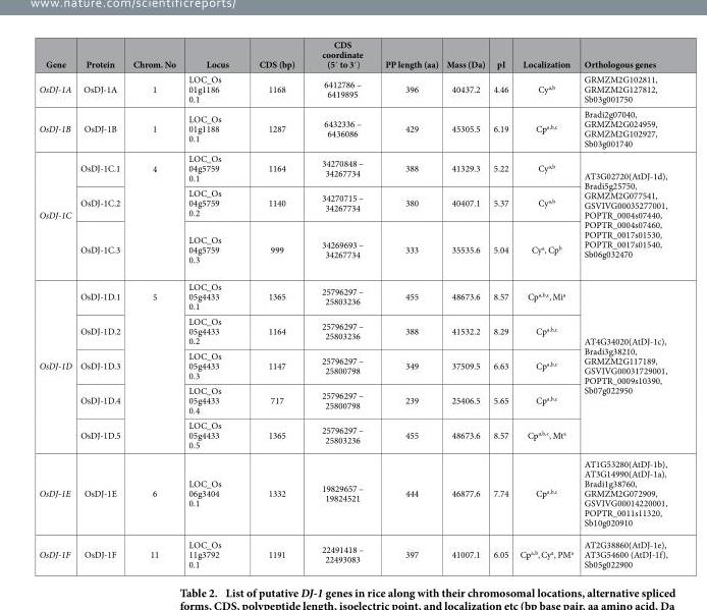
<table><thead><tr><td>Gene</td><td>Protein</td><td>Chrom. No</td><td>Locus</td><td>CDS (bp)</td><td>CDS coordinate (5′ to 3′ )</td><td>PP length (aa)</td><td>Mass (Da)</td><td>pI</td><td>Localization</td><td>Orthologous genes</td></tr></thead><tbody><tr><td>OsDJ-1A</td><td>OsDJ-1A</td><td>1</td><td>LOC_Os 01g1186 0.1</td><td>1168</td><td>6412786 – 6419895</td><td>396</td><td>40437.2</td><td>4.46</td><td>Cy<sup>a</sup>,<sup>b</sup></td><td>GRMZM2G102811, GRMZM2G127812, Sb03g001750</td></tr><tr><td>OsDJ-1B</td><td>OsDJ-1B</td><td>1</td><td>LOC_Os 01g1188 0.1</td><td>1287</td><td>6432336 – 6436086</td><td>429</td><td>45305.5</td><td>6.19</td><td>Cp<sup>a</sup>,<sup>b</sup>,<sup>c</sup></td><td>Bradi2g07040, GRMZM2G024959, GRMZM2G102927, Sb03g001740</td></tr><tr><td rowspan="3">OsDJ-1C</td><td>OsDJ-1C.1</td><td rowspan="3">4</td><td>LOC_Os 04g5759 0.1</td><td>1164</td><td>34270848 – 34267734</td><td>388</td><td>41329.3</td><td>5.22</td><td>Cy<sup>a</sup>,<sup>b</sup></td><td rowspan="3">AT3G02720(AtDJ-1d), Bradi5g25750, GRMZM2G077541, GSVIVG00035277001, POPTR_0004s07440, POPTR_0004s07460, POPTR_0017s01530, POPTR_0017s01540, Sb06g032470</td></tr><tr><td>OsDJ-1C.2</td><td>LOC_Os 04g5759 0.2</td><td>1140</td><td>34270715 – 34267734</td><td>380</td><td>40407.1</td><td>5.37</td><td>Cy<sup>a</sup>,<sup>b</sup></td></tr><tr><td>OsDJ-1C.3</td><td>LOC_Os 04g5759 0.3</td><td>999</td><td>34269693 – 34267734</td><td>333</td><td>35535.6</td><td>5.04</td><td>Cy<sup>a</sup>, Cp<sup>b</sup></td></tr><tr><td rowspan="5">OsDJ-1D</td><td>OsDJ-1D.1</td><td rowspan="5">5</td><td>LOC_Os 05g4433 0.1</td><td>1365</td><td>25796297 – 25803236</td><td>455</td><td>48673.6</td><td>8.57</td><td>Cp<sup>a</sup>,<sup>b</sup>,<sup>c</sup>, Mi<sup>a</sup></td><td rowspan="5">AT4G34020(AtDJ-1c), Bradi3g38210, GRMZM2G117189, GSVIVG00031729001, POPTR_0009s10390, Sb07g022950</td></tr><tr><td>OsDJ-1D.2</td><td>LOC_Os 05g4433 0.2</td><td>1164</td><td>25796297 – 25803236</td><td>388</td><td>41532.2</td><td>8.29</td><td>Cp<sup>a</sup>,<sup>b</sup>,<sup>c</sup></td></tr><tr><td>OsDJ-1D.3</td><td>LOC_Os 05g4433 0.3</td><td>1147</td><td>25796297 – 25800798</td><td>349</td><td>37509.5</td><td>6.63</td><td>Cp<sup>a</sup>,<sup>b</sup>,<sup>c</sup></td></tr><tr><td>OsDJ-1D.4</td><td>LOC_Os 05g4433 0.4</td><td>717</td><td>25796297 – 25800798</td><td>239</td><td>25406.5</td><td>5.65</td><td>Cp<sup>a</sup>,<sup>b</sup>,<sup>c</sup></td></tr><tr><td>OsDJ-1D.5</td><td>LOC_Os 05g4433 0.5</td><td>1365</td><td>25796297 – 25803236</td><td>455</td><td>48673.6</td><td>8.57</td><td>Cp<sup>a</sup>,<sup>b</sup>,<sup>c</sup>, Mt<sup>a</sup></td></tr><tr><td>OsDJ-1E</td><td>OsDJ-1E</td><td>6</td><td>LOC_Os 06g3404 0.1</td><td>1332</td><td>19829657 – 19824521</td><td>444</td><td>46877.6</td><td>7.74</td><td>Cp<sup>a</sup>,<sup>b</sup>,<sup>c</sup></td><td>AT1G53280(AtDJ-1b), AT3G14990(AtDJ-1a), Bradi1g38760, GRMZM2G072909, GSVIVG00014220001, POPTR_0011s11320, Sb10g020910</td></tr><tr><td>OsDJ-1F</td><td>OsDJ-1F</td><td>11</td><td>LOC_Os 11g3792 0.1</td><td>1191</td><td>22491418 – 22493083</td><td>397</td><td>41007.1</td><td>6.05</td><td>Cp<sup>a</sup>,<sup>b</sup>, Cy<sup>a</sup>, PM<sup>a</sup></td><td>AT2G38860(AtDJ-1e), AT3G54600 (AtDJ-1f), Sb05g022900</td></tr></tbody></table>